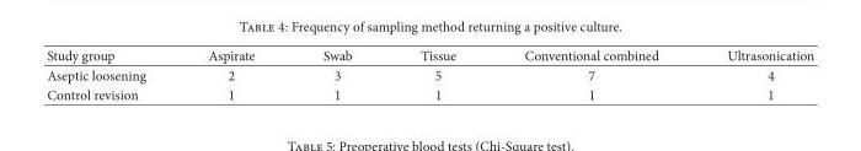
<table><thead><tr><td>Study group</td><td>Aspirate</td><td>Swab</td><td>Tissue</td><td>Conventional combined</td><td>Ultrasonication</td></tr></thead><tbody><tr><td>Aseptic loosening</td><td>2</td><td>3</td><td>5</td><td>7</td><td>4</td></tr><tr><td>Control revision</td><td>1</td><td>1</td><td>1</td><td>1</td><td>1</td></tr></tbody></table>